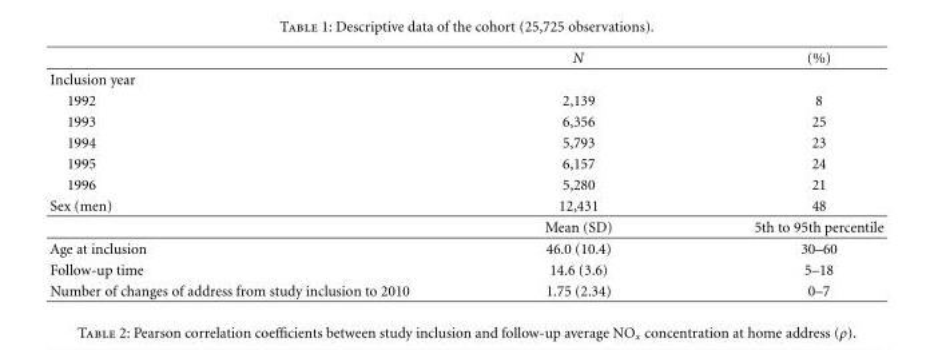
<table><thead><tr><td></td><td>N</td><td>(%)</td></tr></thead><tbody><tr><td colspan="3">Inclusion year</td></tr><tr><td>1992</td><td>2,139</td><td>8</td></tr><tr><td>1993</td><td>6,356</td><td>25</td></tr><tr><td>1994</td><td>5,793</td><td>23</td></tr><tr><td>1995</td><td>6,157</td><td>24</td></tr><tr><td>1996</td><td>5,280</td><td>21</td></tr><tr><td rowspan="2">Sex (men)</td><td>12,431</td><td>48</td></tr><tr><td>Mean (SD)</td><td>5th to 95th percentile</td></tr><tr><td>Age at inclusion</td><td>46.0 (10.4)</td><td>30–60</td></tr><tr><td>Follow-up time</td><td>14.6 (3.6)</td><td>5–18</td></tr><tr><td>Number of changes of address from study inclusion to 2010</td><td>1.75 (2.34)</td><td>0–7</td></tr></tbody></table>